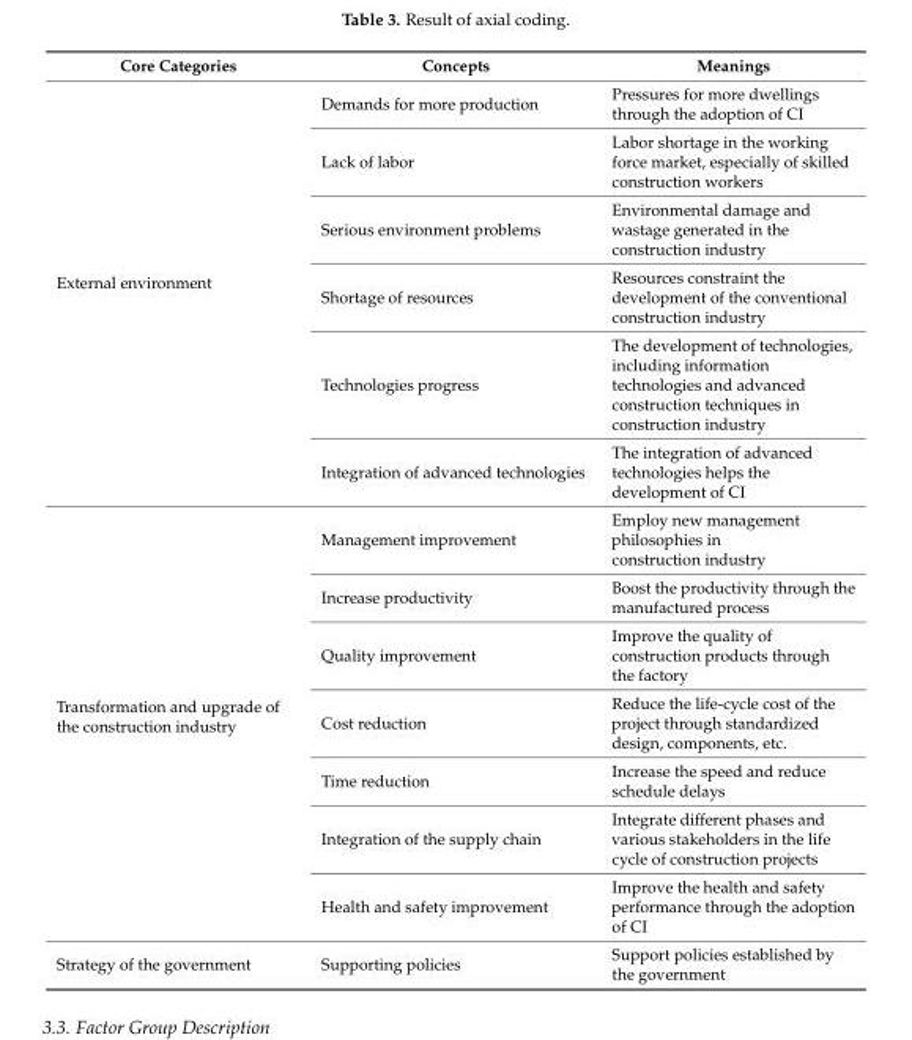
<table><thead><tr><td>Core Categories</td><td>Concepts</td><td>Meanings</td></tr></thead><tbody><tr><td rowspan="6">External environment</td><td>Demands for more production</td><td>Pressures for more dwellings through the adoption of CI</td></tr><tr><td>Lack of labor</td><td>Labor shortage in the working force market, especially of skilled construction workers</td></tr><tr><td>Serious environment problems</td><td>Environmental damage and wastage generated in the construction industry</td></tr><tr><td>Shortage of resources</td><td>Resources constraint the development of the conventional construction industry</td></tr><tr><td>Technologies progress</td><td>The development of technologies, including information technologies and advanced construction techniques in construction industry</td></tr><tr><td>Integration of advanced technologies</td><td>The integration of advanced technologies helps the development of CI</td></tr><tr><td rowspan="7">Transformation and upgrade of the construction industry</td><td>Management improvement</td><td>Employ new management philosophies in construction industry</td></tr><tr><td>Increase productivity</td><td>Boost the productivity through the manufactured process</td></tr><tr><td>Quality improvement</td><td>Improve the quality of construction products through the factory</td></tr><tr><td>Cost reduction</td><td>Reduce the life-cycle cost of the project through standardized design, components, etc.</td></tr><tr><td>Time reduction</td><td>Increase the speed and reduce schedule delays</td></tr><tr><td>Integration of the supply chain</td><td>Integrate different phases and various stakeholders in the life cycle of construction projects</td></tr><tr><td>Health and safety improvement</td><td>Improve the health and safety performance through the adoption of CI</td></tr><tr><td>Strategy of the government</td><td>Supporting policies</td><td>Support policies established by the government</td></tr></tbody></table>